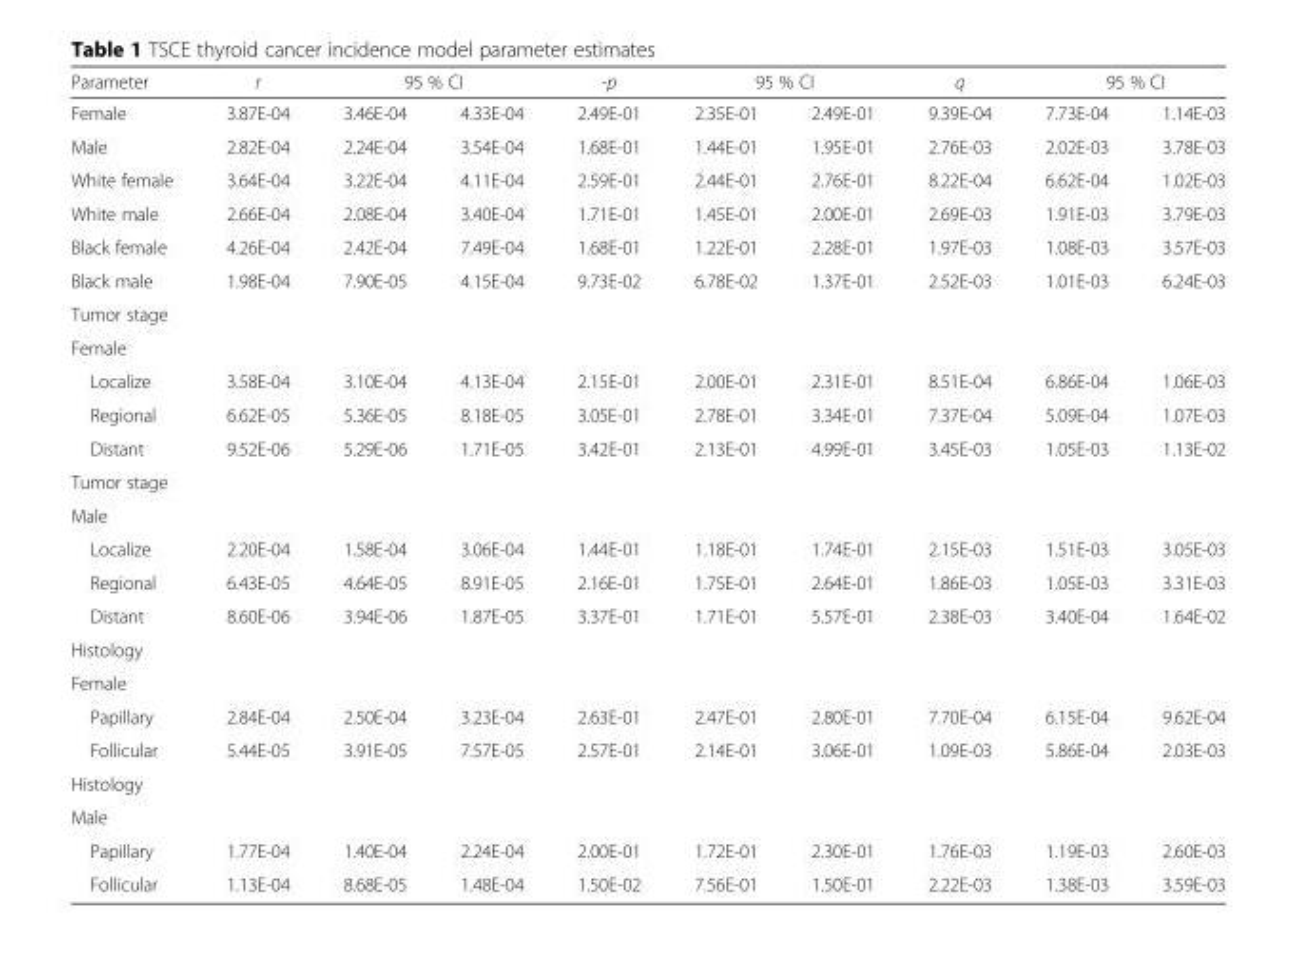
<table><thead><tr><td rowspan="2">Parameter Female</td><td rowspan="2">r 3.87E-04</td><td colspan="2">95 % CI</td><td rowspan="2">-p 2.49E-01</td><td colspan="2">95 % CI</td><td rowspan="2">q 9.39E-04</td><td colspan="2">95 % CI</td></tr><tr><td>3.46E-04</td><td>4.33E-04</td><td>2.35E-01</td><td>2.49E-01</td><td>7.73E-04</td><td>1.14E-03</td></tr></thead><tbody><tr><td>Male</td><td>2.82E-04</td><td>2.24E-04</td><td>3.54E-04</td><td>1.68E-01</td><td>1.44E-01</td><td>1.95E-01</td><td>2.76E-03</td><td>2.02E-03</td><td>3.78E-03</td></tr><tr><td>White female</td><td>3.64E-04</td><td>3.22E-04</td><td>4.11E-04</td><td>2.59E-01</td><td>2.44E-01</td><td>2.76E-01</td><td>8.22E-04</td><td>6.62E-04</td><td>1.02E-03</td></tr><tr><td>White male</td><td>2.66E-04</td><td>2.08E-04</td><td>3.40E-04</td><td>1.71E-01</td><td>1.45E-01</td><td>2.00E-01</td><td>2.69E-03</td><td>1.91E-03</td><td>3.79E-03</td></tr><tr><td>Black female</td><td>4.26E-04</td><td>2.42E-04</td><td>7.49E-04</td><td>1.68E-01</td><td>1.22E-01</td><td>2.28E-01</td><td>1.97E-03</td><td>1.08E-03</td><td>3.57E-03</td></tr><tr><td>Black male</td><td>1.98E-04</td><td>7.90E-05</td><td>4.15E-04</td><td>9.73E-02</td><td>6.78E-02</td><td>1.37E-01</td><td>2.52E-03</td><td>1.01E-03</td><td>6.24E-03</td></tr><tr><td colspan="10">Tumor stage</td></tr><tr><td colspan="10">Female</td></tr><tr><td>Localize</td><td>3.58E-04</td><td>3.10E-04</td><td>4.13E-04</td><td>2.15E-01</td><td>2.00E-01</td><td>2.31E-01</td><td>8.51E-04</td><td>6.86E-04</td><td>1.06E-03</td></tr><tr><td>Regional</td><td>6.62E-05</td><td>5.36E-05</td><td>8.18E-05</td><td>3.05E-01</td><td>2.78E-01</td><td>3.34E-01</td><td>7.37E-04</td><td>5.09E-04</td><td>1.07E-03</td></tr><tr><td>Distant</td><td>9.52E-06</td><td>5.29E-06</td><td>1.71E-05</td><td>3.42E-01</td><td>2.13E-01</td><td>4.99E-01</td><td>3.45E-03</td><td>1.05E-03</td><td>1.13E-02</td></tr><tr><td colspan="10">Tumor stage</td></tr><tr><td colspan="10">Male</td></tr><tr><td>Localize</td><td>2.20E-04</td><td>1.58E-04</td><td>3.06E-04</td><td>1.44E-01</td><td>1.18E-01</td><td>1.74E-01</td><td>2.15E-03</td><td>1.51E-03</td><td>3.05E-03</td></tr><tr><td>Regional</td><td>6.43E-05</td><td>4.64E-05</td><td>8.91E-05</td><td>2.16E-01</td><td>1.75E-01</td><td>2.64E-01</td><td>1.86E-03</td><td>1.05E-03</td><td>3.31E-03</td></tr><tr><td>Distant</td><td>8.60E-06</td><td>3.94E-06</td><td>1.87E-05</td><td>3.37E-01</td><td>1.71E-01</td><td>5.57E-01</td><td>2.38E-03</td><td>3.40E-04</td><td>1.64E-02</td></tr><tr><td colspan="10">Histology</td></tr><tr><td colspan="10">Female</td></tr><tr><td>Papillary</td><td>2.84E-04</td><td>2.50E-04</td><td>3.23E-04</td><td>2.63E-01</td><td>2.47E-01</td><td>2.80E-01</td><td>7.70E-04</td><td>6.15E-04</td><td>9.62E-04</td></tr><tr><td>Follicular</td><td>5.44E-05</td><td>3.91E-05</td><td>7.57E-05</td><td>2.57E-01</td><td>2.14E-01</td><td>3.06E-01</td><td>1.09E-03</td><td>5.86E-04</td><td>2.03E-03</td></tr><tr><td colspan="10">Histology</td></tr><tr><td colspan="10">Male</td></tr><tr><td>Papillary</td><td>1.77E-04</td><td>1.40E-04</td><td>2.24E-04</td><td>2.00E-01</td><td>1.72E-01</td><td>2.30E-01</td><td>1.76E-03</td><td>1.19E-03</td><td>2.60E-03</td></tr><tr><td>Follicular</td><td>1.13E-04</td><td>8.68E-05</td><td>1.48E-04</td><td>1.50E-02</td><td>7.56E-01</td><td>1.50E-01</td><td>2.22E-03</td><td>1.38E-03</td><td>3.59E-03</td></tr></tbody></table>